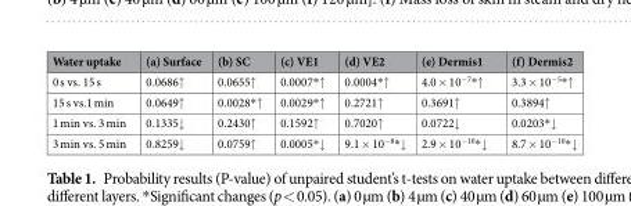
<table><thead><tr><td>Water uptake</td><td>(a) Surface</td><td>(b) SC</td><td>(c) VE1</td><td>(d) VE2</td><td>(e) Dermis1</td><td>(f) Dermis2</td></tr></thead><tbody><tr><td>0 s vs. 15 s</td><td>0.0686↑</td><td>0.0655↑</td><td>0.0007*↑</td><td>0.0004*↑</td><td>4.0 × 10<sup>−7</sup>*↑</td><td>3.3 × 10<sup>−5</sup>*↑</td></tr><tr><td>15 s vs.1 min</td><td>0.0649↑</td><td>0.0028*↑</td><td>0.0029*↑</td><td>0.2721↑</td><td>0.3691↑</td><td>0.3894↑</td></tr><tr><td>1 min vs. 3 min</td><td>0.1335↓</td><td>0.2430↑</td><td>0.1592↑</td><td>0.7020↑</td><td>0.0722↓</td><td>0.0203*↓</td></tr><tr><td>3 min vs. 5 min</td><td>0.8259↓</td><td>0.0759↑</td><td>0.0005*↓</td><td>9.1 × 10<sup>−8</sup>*↓</td><td>2.9 × 10<sup>−10</sup>*↓</td><td>8.7 × 10<sup>−10</sup>*↓</td></tr></tbody></table>